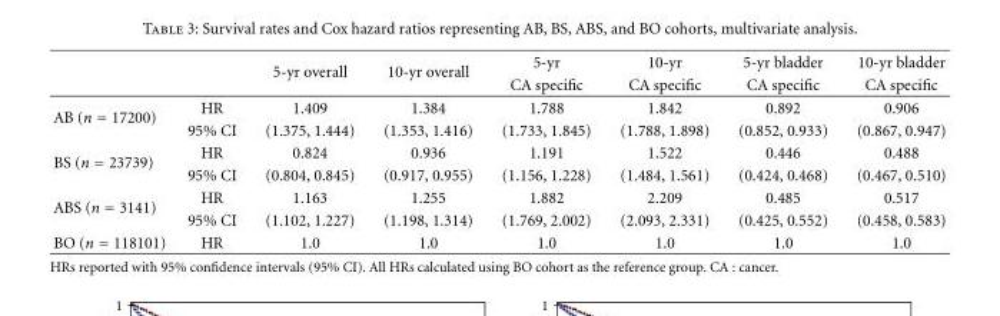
<table><thead><tr><td rowspan="2"></td><td rowspan="2"></td><td rowspan="2">5-yr overall</td><td rowspan="2">10-yr overall</td><td rowspan="2">5-yr CA specific</td><td rowspan="2">10-yr CA specific</td><td rowspan="2">5-yr bladder CA specific</td><td rowspan="2">10-yr bladder CA specific</td></tr><tr></tr></thead><tbody><tr><td rowspan="2">AB (n = 17200)</td><td>HR</td><td>1.409</td><td>1.384</td><td>1.788</td><td>1.842</td><td>0.892</td><td>0.906</td></tr><tr><td>95% CI</td><td>(1.375, 1.444)</td><td>(1.353, 1.416)</td><td>(1.733, 1.845)</td><td>(1.788, 1.898)</td><td>(0.852, 0.933)</td><td>(0.867, 0.947)</td></tr><tr><td rowspan="2">BS (n = 23739)</td><td>HR</td><td>0.824</td><td>0.936</td><td>1.191</td><td>1.522</td><td>0.446</td><td>0.488</td></tr><tr><td>95% CI</td><td>(0.804, 0.845)</td><td>(0.917, 0.955)</td><td>(1.156, 1.228)</td><td>(1.484, 1.561)</td><td>(0.424, 0.468)</td><td>(0.467, 0.510)</td></tr><tr><td rowspan="2">ABS (n = 3141)</td><td>HR</td><td>1.163</td><td>1.255</td><td>1.882</td><td>2.209</td><td>0.485</td><td>0.517</td></tr><tr><td>95% CI</td><td>(1.102, 1.227)</td><td>(1.198, 1.314)</td><td>(1.769, 2.002)</td><td>(2.093, 2.331)</td><td>(0.425, 0.552)</td><td>(0.458, 0.583)</td></tr><tr><td>BO (n = 118101)</td><td>HR</td><td>1.0</td><td>1.0</td><td>1.0</td><td>1.0</td><td>1.0</td><td>1.0</td></tr></tbody></table>